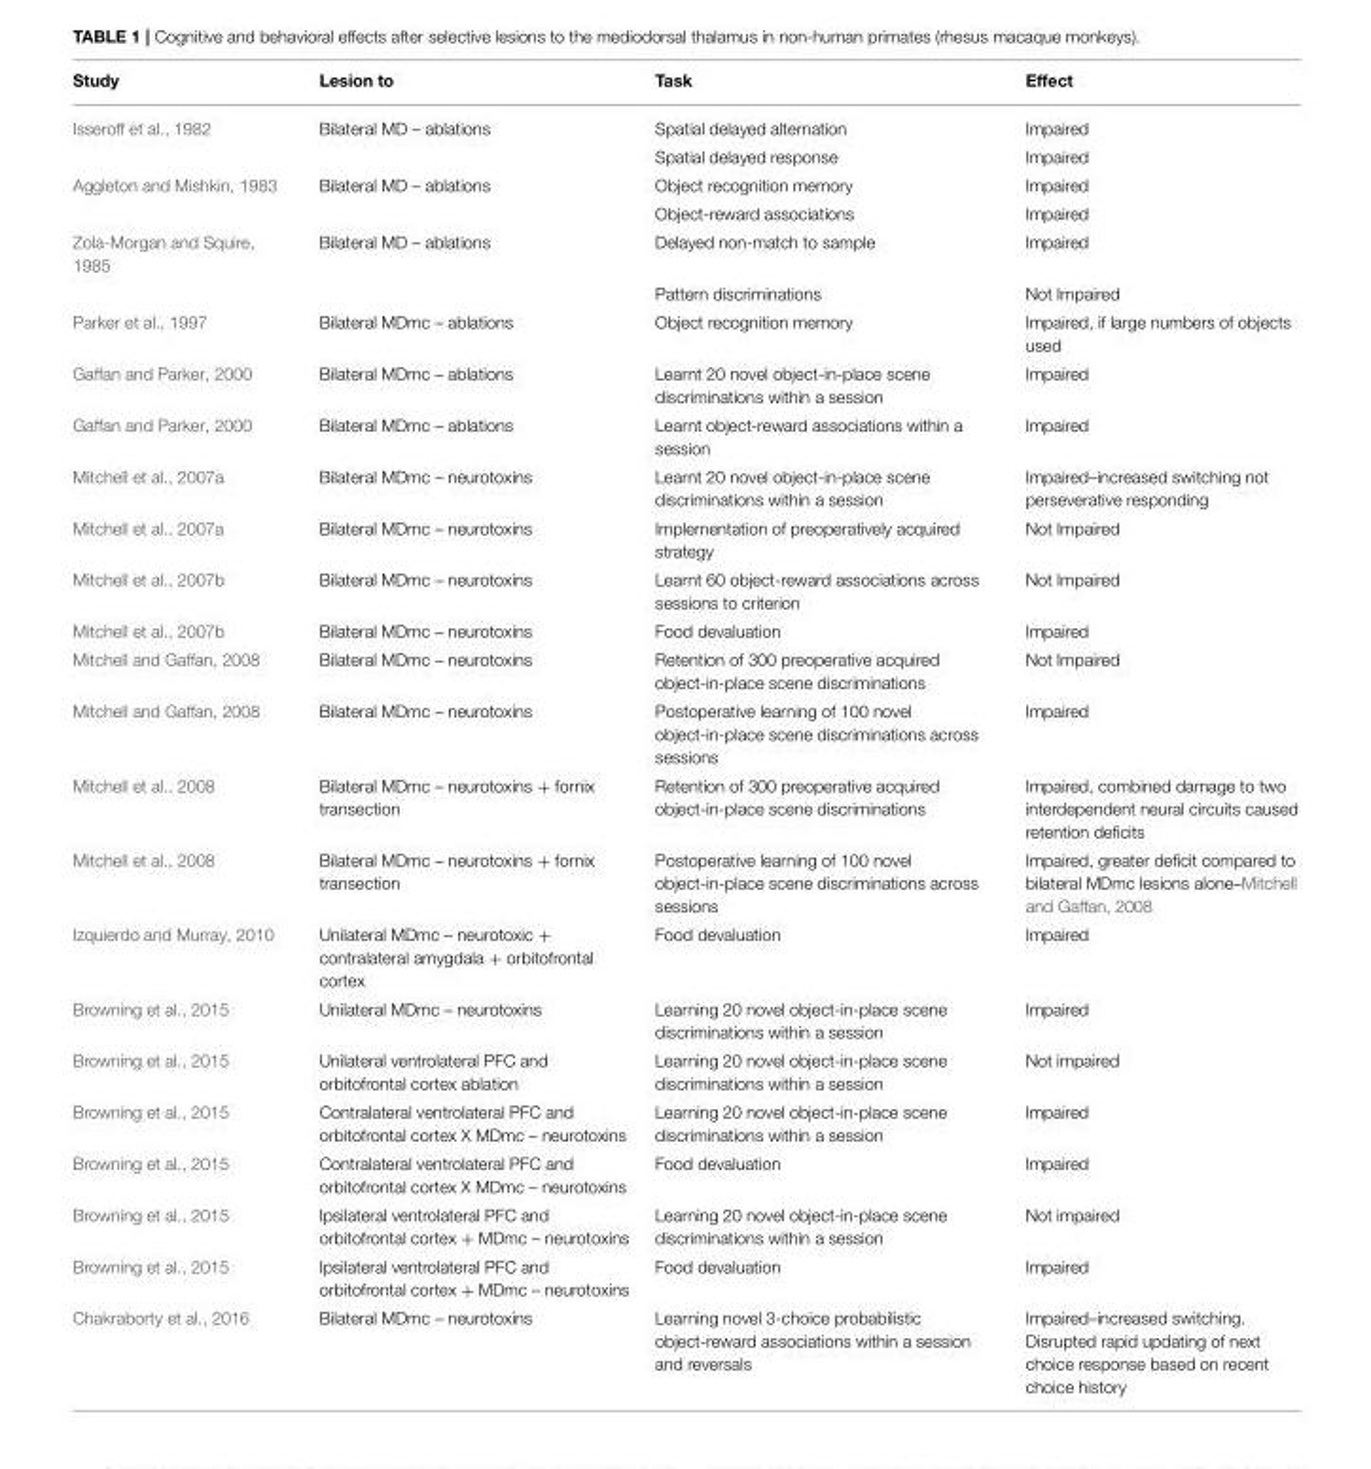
<table><thead><tr><td>Study</td><td>Lesion to</td><td>Task</td><td>Effect</td></tr></thead><tbody><tr><td rowspan="2">Isseroff et al., 1982</td><td>Bilateral MD – ablations</td><td>Spatial delayed alternation</td><td>Impaired</td></tr><tr><td></td><td>Spatial delayed response</td><td>Impaired</td></tr><tr><td rowspan="2">Aggleton and Mishkin, 1983</td><td>Bilateral MD – ablations</td><td>Object recognition memory</td><td>Impaired</td></tr><tr><td></td><td>Object-reward associations</td><td>Impaired</td></tr><tr><td rowspan="2">Zola-Morgan and Squire, 1985</td><td>Bilateral MD – ablations</td><td>Delayed non-match to sample</td><td>Impaired</td></tr><tr><td></td><td>Pattern discriminations</td><td>Not Impaired</td></tr><tr><td>Parker et al., 1997</td><td>Bilateral MDmc – ablations</td><td>Object recognition memory</td><td>Impaired, if large numbers of objects used</td></tr><tr><td>Gaffan and Parker, 2000</td><td>Bilateral MDmc – ablations</td><td>Learnt 20 novel object-in-place scene discriminations within a session</td><td>Impaired</td></tr><tr><td>Gaffan and Parker, 2000</td><td>Bilateral MDmc – ablations</td><td>Learnt object-reward associations within a session</td><td>Impaired</td></tr><tr><td>Mitchell et al., 2007a</td><td>Bilateral MDmc – neurotoxins</td><td>Learnt 20 novel object-in-place scene discriminations within a session</td><td>Impaired–increased switching not perseverative responding</td></tr><tr><td>Mitchell et al., 2007a</td><td>Bilateral MDmc – neurotoxins</td><td>Implementation of preoperatively acquired strategy</td><td>Not Impaired</td></tr><tr><td>Mitchell et al., 2007b</td><td>Bilateral MDmc – neurotoxins</td><td>Learnt 60 object-reward associations across sessions to criterion</td><td>Not Impaired</td></tr><tr><td>Mitchell et al., 2007b</td><td>Bilateral MDmc – neurotoxins</td><td>Food devaluation</td><td>Impaired</td></tr><tr><td>Mitchell and Gaffan, 2008</td><td>Bilateral MDmc – neurotoxins</td><td>Retention of 300 preoperative acquired object-in-place scene discriminations</td><td>Not Impaired</td></tr><tr><td>Mitchell and Gaffan, 2008</td><td>Bilateral MDmc – neurotoxins</td><td>Postoperative learning of 100 novel object-in-place scene discriminations across sessions</td><td>Impaired</td></tr><tr><td>Mitchell et al., 2008</td><td>Bilateral MDmc – neurotoxins + fornix transection</td><td>Retention of 300 preoperative acquired object-in-place scene discriminations</td><td>Impaired, combined damage to two interdependent neural circuits caused retention deficits</td></tr><tr><td>Mitchell et al., 2008</td><td>Bilateral MDmc – neurotoxins + fornix transection</td><td>Postoperative learning of 100 novel object-in-place scene discriminations across sessions</td><td>Impaired, greater deficit compared to bilateral MDmc lesions alone–Mitchell and Gaffan, 2008</td></tr><tr><td>Izquierdo and Murray, 2010</td><td>Unilateral MDmc – neurotoxic + contralateral amygdala + orbitofrontal cortex</td><td>Food devaluation</td><td>Impaired</td></tr><tr><td>Browning et al., 2015</td><td>Unilateral MDmc – neurotoxins</td><td>Learning 20 novel object-in-place scene discriminations within a session</td><td>Impaired</td></tr><tr><td>Browning et al., 2015</td><td>Unilateral ventrolateral PFC and orbitofrontal cortex ablation</td><td>Learning 20 novel object-in-place scene discriminations within a session</td><td>Not impaired</td></tr><tr><td>Browning et al., 2015</td><td>Contralateral ventrolateral PFC and orbitofrontal cortex X MDmc – neurotoxins</td><td>Learning 20 novel object-in-place scene discriminations within a session</td><td>Impaired</td></tr><tr><td>Browning et al., 2015</td><td>Contralateral ventrolateral PFC and orbitofrontal cortex X MDmc – neurotoxins</td><td>Food devaluation</td><td>Impaired</td></tr><tr><td>Browning et al., 2015</td><td>Ipsilateral ventrolateral PFC and orbitofrontal cortex + MDmc – neurotoxins</td><td>Learning 20 novel object-in-place scene discriminations within a session</td><td>Not impaired</td></tr><tr><td>Browning et al., 2015</td><td>Ipsilateral ventrolateral PFC and orbitofrontal cortex + MDmc – neurotoxins</td><td>Food devaluation</td><td>Impaired</td></tr><tr><td>Chakraborty et al., 2016</td><td>Bilateral MDmc – neurotoxins</td><td>Learning novel 3-choice probabilistic object-reward associations within a session and reversals</td><td>Impaired–increased switching. Disrupted rapid updating of next choice response based on recent choice history</td></tr></tbody></table>